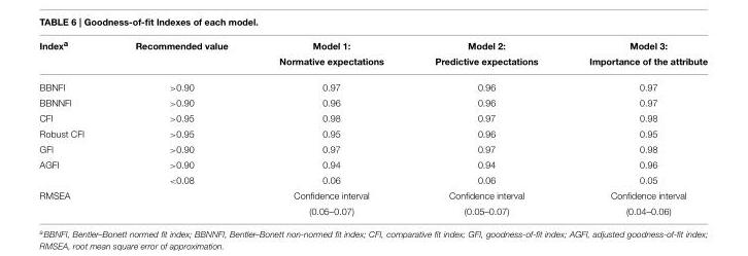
<table><thead><tr><td>Index<sup>a</sup></td><td>Recommended value</td><td>Model 1: Normative expectations</td><td>Model 2: Predictive expectations</td><td>Model 3: Importance of the attribute</td></tr></thead><tbody><tr><td>BBNFI</td><td>&gt;0.90</td><td>0.97</td><td>0.96</td><td>0.97</td></tr><tr><td>BBNNFI</td><td>&gt;0.90</td><td>0.96</td><td>0.96</td><td>0.97</td></tr><tr><td>CFI</td><td>&gt;0.95</td><td>0.98</td><td>0.97</td><td>0.98</td></tr><tr><td>Robust CFI</td><td>&gt;0.95</td><td>0.95</td><td>0.96</td><td>0.95</td></tr><tr><td>GFI</td><td>&gt;0.90</td><td>0.97</td><td>0.97</td><td>0.98</td></tr><tr><td rowspan="2">AGFI</td><td>&gt;0.90</td><td>0.94</td><td>0.94</td><td>0.96</td></tr><tr><td>&lt;0.08</td><td>0.06</td><td>0.06</td><td>0.05</td></tr><tr><td rowspan="2">RMSEA</td><td></td><td>Confidence interval</td><td>Confidence interval</td><td>Confidence interval</td></tr><tr><td></td><td>(0.05–0.07)</td><td>(0.05–0.07)</td><td>(0.04–0.06)</td></tr></tbody></table>